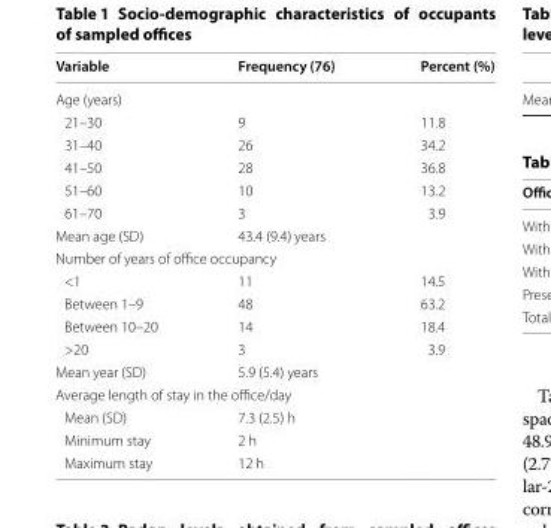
<table><thead><tr><td>Variable</td><td>Frequency (76)</td><td>Percent (%)</td></tr></thead><tbody><tr><td colspan="3">Age (years)</td></tr><tr><td>21–30</td><td>9</td><td>11.8</td></tr><tr><td>31–40</td><td>26</td><td>34.2</td></tr><tr><td>41–50</td><td>28</td><td>36.8</td></tr><tr><td>51–60</td><td>10</td><td>13.2</td></tr><tr><td>61–70</td><td>3</td><td>3.9</td></tr><tr><td>Mean age (SD)</td><td>43.4 (9.4) years</td><td></td></tr><tr><td colspan="3">Number of years of office occupancy</td></tr><tr><td>&lt;1</td><td>11</td><td>14.5</td></tr><tr><td>Between 1–9</td><td>48</td><td>63.2</td></tr><tr><td>Between 10–20</td><td>14</td><td>18.4</td></tr><tr><td>&gt;20</td><td>3</td><td>3.9</td></tr><tr><td>Mean year (SD)</td><td>5.9 (5.4) years</td><td></td></tr><tr><td colspan="3">Average length of stay in the office/day</td></tr><tr><td>Mean (SD)</td><td>7.3 (2.5) h</td><td></td></tr><tr><td>Minimum stay</td><td>2 h</td><td></td></tr><tr><td>Maximum stay</td><td>12 h</td><td></td></tr></tbody></table>